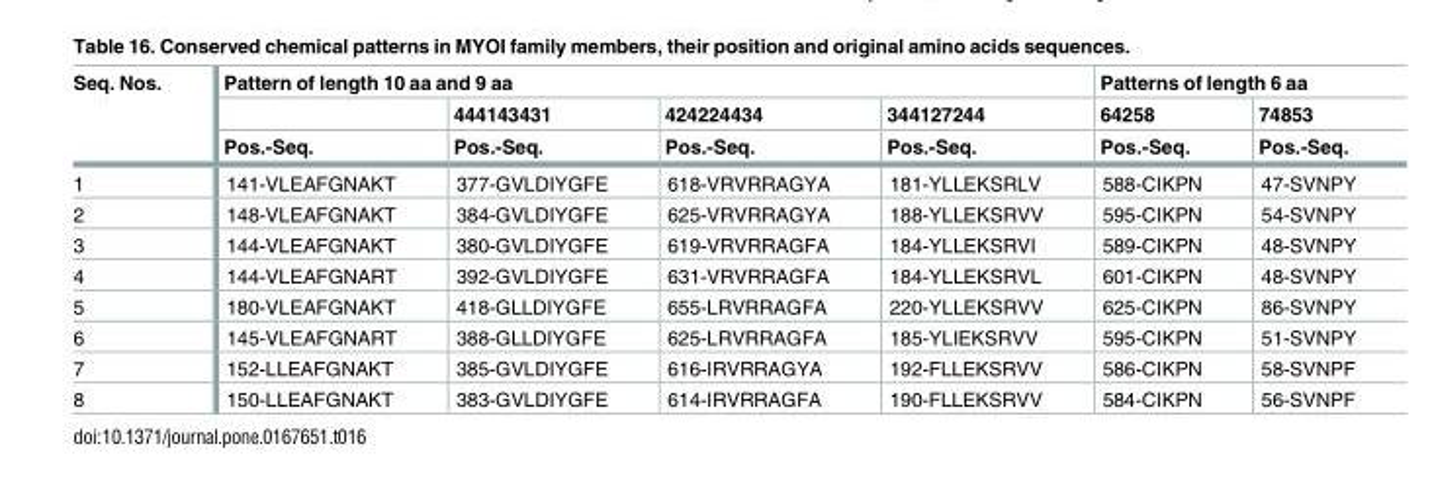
<table><thead><tr><td rowspan="3">Seq. Nos.</td><td colspan="4">Pattern of length 10 aa and 9 aa</td><td colspan="2">Patterns of length 6 aa</td></tr><tr><td rowspan="2">Pos.-Seq.</td><td rowspan="2">444143431 Pos.-Seq.</td><td rowspan="2">424224434 Pos.-Seq.</td><td rowspan="2">344127244 Pos.-Seq.</td><td rowspan="2">64258 Pos.-Seq.</td><td rowspan="2">74853 Pos.-Seq.</td></tr><tr></tr></thead><tbody><tr><td>1</td><td>141-VLEAFGNAKT</td><td>377-GVLDIYGFE</td><td>618-VRVRRAGYA</td><td>181-YLLEKSRLV</td><td>588-CIKPN</td><td>47-SVNPY</td></tr><tr><td>2</td><td>148-VLEAFGNAKT</td><td>384-GVLDIYGFE</td><td>625-VRVRRAGYA</td><td>188-YLLEKSRVV</td><td>595-CIKPN</td><td>54-SVNPY</td></tr><tr><td>3</td><td>144-VLEAFGNAKT</td><td>380-GVLDIYGFE</td><td>619-VRVRRAGFA</td><td>184-YLLEKSRVI</td><td>589-CIKPN</td><td>48-SVNPY</td></tr><tr><td>4</td><td>144-VLEAFGNART</td><td>392-GVLDIYGFE</td><td>631-VRVRRAGFA</td><td>184-YLLEKSRVL</td><td>601-CIKPN</td><td>48-SVNPY</td></tr><tr><td>5</td><td>180-VLEAFGNAKT</td><td>418-GLLDIYGFE</td><td>655-LRVRRAGFA</td><td>220-YLLEKSRVV</td><td>625-CIKPN</td><td>86-SVNPY</td></tr><tr><td>6</td><td>145-VLEAFGNART</td><td>388-GLLDIYGFE</td><td>625-LRVRRAGFA</td><td>185-YLIEKSRVV</td><td>595-CIKPN</td><td>51-SVNPY</td></tr><tr><td>7</td><td>152-LLEAFGNAKT</td><td>385-GVLDIYGFE</td><td>616-IRVRRAGYA</td><td>192-FLLEKSRVV</td><td>586-CIKPN</td><td>58-SVNPF</td></tr><tr><td>8</td><td>150-LLEAFGNAKT</td><td>383-GVLDIYGFE</td><td>614-IRVRRAGFA</td><td>190-FLLEKSRVV</td><td>584-CIKPN</td><td>56-SVNPF</td></tr></tbody></table>